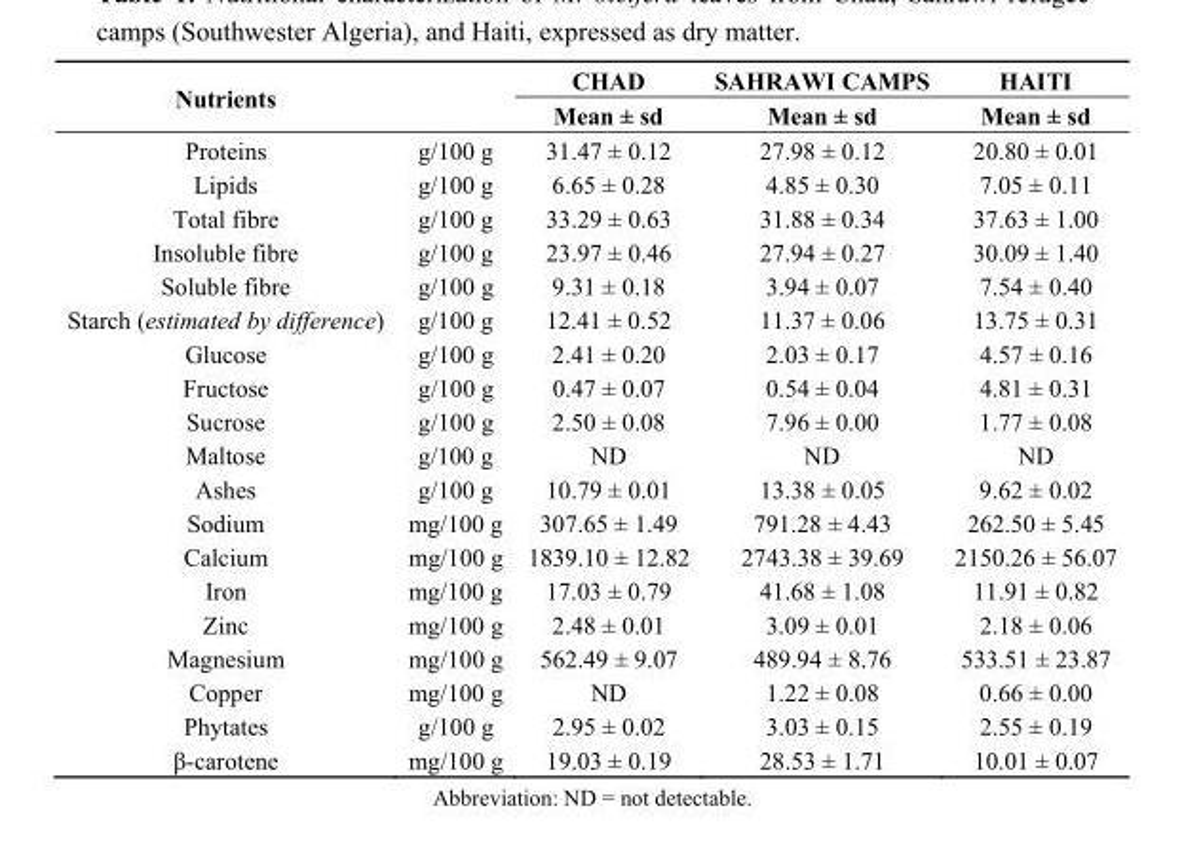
<table><thead><tr><td rowspan="2">Nutrients</td><td rowspan="2"></td><td rowspan="2">CHAD Mean ± sd</td><td rowspan="2">SAHRAWI CAMPS Mean ± sd</td><td rowspan="2">HAITI Mean ± sd</td></tr><tr></tr></thead><tbody><tr><td>Proteins</td><td>g/100 g</td><td>31.47 ± 0.12</td><td>27.98 ± 0.12</td><td>20.80 ± 0.01</td></tr><tr><td>Lipids</td><td>g/100 g</td><td>6.65 ± 0.28</td><td>4.85 ± 0.30</td><td>7.05 ± 0.11</td></tr><tr><td>Total fibre</td><td>g/100 g</td><td>33.29 ± 0.63</td><td>31.88 ± 0.34</td><td>37.63 ± 1.00</td></tr><tr><td>Insoluble fibre</td><td>g/100 g</td><td>23.97 ± 0.46</td><td>27.94 ± 0.27</td><td>30.09 ± 1.40</td></tr><tr><td>Soluble fibre</td><td>g/100 g</td><td>9.31 ± 0.18</td><td>3.94 ± 0.07</td><td>7.54 ± 0.40</td></tr><tr><td>Starch (estimated by difference)</td><td>g/100 g</td><td>12.41 ± 0.52</td><td>11.37 ± 0.06</td><td>13.75 ± 0.31</td></tr><tr><td>Glucose</td><td>g/100 g</td><td>2.41 ± 0.20</td><td>2.03 ± 0.17</td><td>4.57 ± 0.16</td></tr><tr><td>Fructose</td><td>g/100 g</td><td>0.47 ± 0.07</td><td>0.54 ± 0.04</td><td>4.81 ± 0.31</td></tr><tr><td>Sucrose</td><td>g/100 g</td><td>2.50 ± 0.08</td><td>7.96 ± 0.00</td><td>1.77 ± 0.08</td></tr><tr><td>Maltose</td><td>g/100 g</td><td>ND</td><td>ND</td><td>ND</td></tr><tr><td>Ashes</td><td>g/100 g</td><td>10.79 ± 0.01</td><td>13.38 ± 0.05</td><td>9.62 ± 0.02</td></tr><tr><td>Sodium</td><td>mg/100 g</td><td>307.65 ± 1.49</td><td>791.28 ± 4.43</td><td>262.50 ± 5.45</td></tr><tr><td>Calcium</td><td>mg/100 g</td><td>1839.10 ± 12.82</td><td>2743.38 ± 39.69</td><td>2150.26 ± 56.07</td></tr><tr><td>Iron</td><td>mg/100 g</td><td>17.03 ± 0.79</td><td>41.68 ± 1.08</td><td>11.91 ± 0.82</td></tr><tr><td>Zinc</td><td>mg/100 g</td><td>2.48 ± 0.01</td><td>3.09 ± 0.01</td><td>2.18 ± 0.06</td></tr><tr><td>Magnesium</td><td>mg/100 g</td><td>562.49 ± 9.07</td><td>489.94 ± 8.76</td><td>533.51 ± 23.87</td></tr><tr><td>Copper</td><td>mg/100 g</td><td>ND</td><td>1.22 ± 0.08</td><td>0.66 ± 0.00</td></tr><tr><td>Phytates</td><td>g/100 g</td><td>2.95 ± 0.02</td><td>3.03 ± 0.15</td><td>2.55 ± 0.19</td></tr><tr><td>β-carotene</td><td>mg/100 g</td><td>19.03 ± 0.19</td><td>28.53 ± 1.71</td><td>10.01 ± 0.07</td></tr></tbody></table>